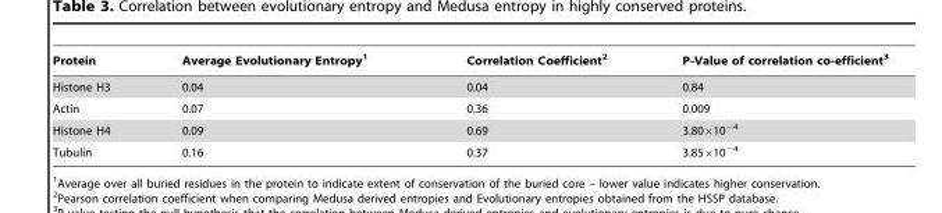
<table><thead><tr><td>Protein</td><td>Average Evolutionary Entropy<sup>1</sup></td><td>Correlation Coefficient<sup>2</sup></td><td>P-Value of correlation co-efficient<sup>3</sup></td></tr></thead><tbody><tr><td>Histone H3</td><td>0.04</td><td>0.04</td><td>0.84</td></tr><tr><td>Actin</td><td>0.07</td><td>0.36</td><td>0.009</td></tr><tr><td>Histone H4</td><td>0.09</td><td>0.69</td><td>3.80×10<sup>−4</sup></td></tr><tr><td>Tubulin</td><td>0.16</td><td>0.37</td><td>3.85×10<sup>−4</sup></td></tr></tbody></table>